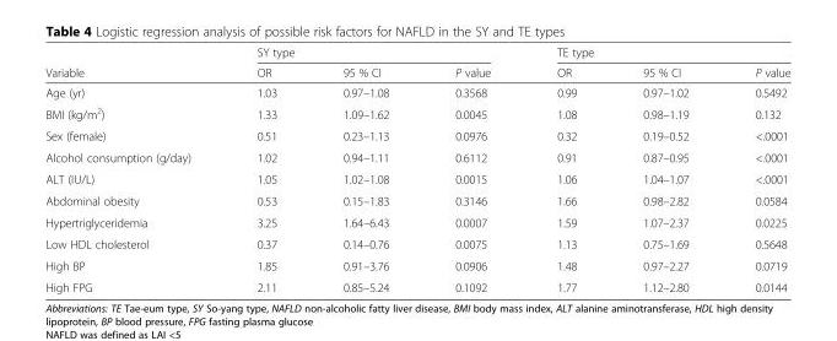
<table><thead><tr><td rowspan="2">Variable</td><td colspan="3">SY type</td><td colspan="3">TE type</td></tr><tr><td>OR</td><td>95 % CI</td><td>P value</td><td>OR</td><td>95 % CI</td><td>P value</td></tr></thead><tbody><tr><td>Age (yr)</td><td>1.03</td><td>0.97–1.08</td><td>0.3568</td><td>0.99</td><td>0.97–1.02</td><td>0.5492</td></tr><tr><td>BMI (kg/m<sup>2</sup>)</td><td>1.33</td><td>1.09–1.62</td><td>0.0045</td><td>1.08</td><td>0.98–1.19</td><td>0.132</td></tr><tr><td>Sex (female)</td><td>0.51</td><td>0.23–1.13</td><td>0.0976</td><td>0.32</td><td>0.19–0.52</td><td>&lt;.0001</td></tr><tr><td>Alcohol consumption (g/day)</td><td>1.02</td><td>0.94–1.11</td><td>0.6112</td><td>0.91</td><td>0.87–0.95</td><td>&lt;.0001</td></tr><tr><td>ALT (IU/L)</td><td>1.05</td><td>1.02–1.08</td><td>0.0015</td><td>1.06</td><td>1.04–1.07</td><td>&lt;.0001</td></tr><tr><td>Abdominal obesity</td><td>0.53</td><td>0.15–1.83</td><td>0.3146</td><td>1.66</td><td>0.98–2.82</td><td>0.0584</td></tr><tr><td>Hypertriglyceridemia</td><td>3.25</td><td>1.64–6.43</td><td>0.0007</td><td>1.59</td><td>1.07–2.37</td><td>0.0225</td></tr><tr><td>Low HDL cholesterol</td><td>0.37</td><td>0.14–0.76</td><td>0.0075</td><td>1.13</td><td>0.75–1.69</td><td>0.5648</td></tr><tr><td>High BP</td><td>1.85</td><td>0.91–3.76</td><td>0.0906</td><td>1.48</td><td>0.97–2.27</td><td>0.0719</td></tr><tr><td>High FPG</td><td>2.11</td><td>0.85–5.24</td><td>0.1092</td><td>1.77</td><td>1.12–2.80</td><td>0.0144</td></tr></tbody></table>